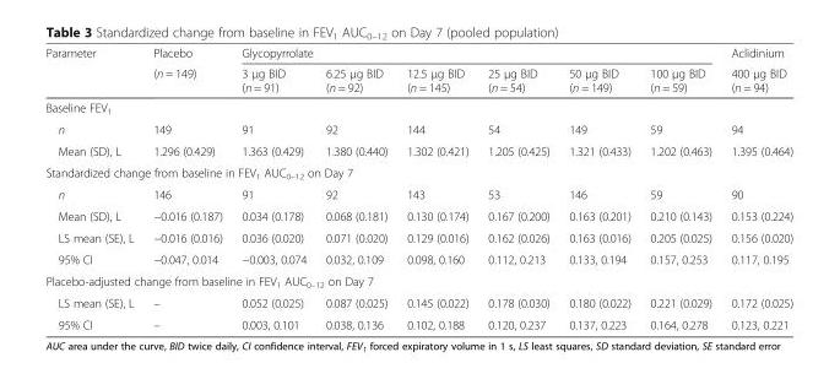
<table><thead><tr><td rowspan="2">Parameter</td><td rowspan="2">Placebo (n = 149)</td><td colspan="6">Glycopyrrolate</td><td rowspan="2">Aclidinium 400 μg BID (n = 94)</td></tr><tr><td>3 μg BID (n = 91)</td><td>6.25 μg BID (n = 92)</td><td>12.5 μg BID (n = 145)</td><td>25 μg BID (n = 54)</td><td>50 μg BID (n = 149)</td><td>100 μg BID (n = 59)</td></tr></thead><tbody><tr><td colspan="9">Baseline FEV<sub>1</sub></td></tr><tr><td>n</td><td>149</td><td>91</td><td>92</td><td>144</td><td>54</td><td>149</td><td>59</td><td>94</td></tr><tr><td>Mean (SD), L</td><td>1.296 (0.429)</td><td>1.363 (0.429)</td><td>1.380 (0.440)</td><td>1.302 (0.421)</td><td>1.205 (0.425)</td><td>1.321 (0.433)</td><td>1.202 (0.463)</td><td>1.395 (0.464)</td></tr><tr><td colspan="9">Standardized change from baseline in FEV<sub>1</sub> AUC<sub>0–12</sub> on Day 7</td></tr><tr><td>n</td><td>146</td><td>91</td><td>92</td><td>143</td><td>53</td><td>146</td><td>59</td><td>90</td></tr><tr><td>Mean (SD), L</td><td>−0.016 (0.187)</td><td>0.034 (0.178)</td><td>0.068 (0.181)</td><td>0.130 (0.174)</td><td>0.167 (0.200)</td><td>0.163 (0.201)</td><td>0.210 (0.143)</td><td>0.153 (0.224)</td></tr><tr><td>LS mean (SE), L</td><td>−0.016 (0.016)</td><td>0.036 (0.020)</td><td>0.071 (0.020)</td><td>0.129 (0.016)</td><td>0.162 (0.026)</td><td>0.163 (0.016)</td><td>0.205 (0.025)</td><td>0.156 (0.020)</td></tr><tr><td>95% CI</td><td>−0.047, 0.014</td><td>−0.003, 0.074</td><td>0.032, 0.109</td><td>0.098, 0.160</td><td>0.112, 0.213</td><td>0.133, 0.194</td><td>0.157, 0.253</td><td>0.117, 0.195</td></tr><tr><td colspan="9">Placebo-adjusted change from baseline in FEV<sub>1</sub> AUC<sub>0–12</sub> on Day 7</td></tr><tr><td>LS mean (SE), L</td><td>–</td><td>0.052 (0.025)</td><td>0.087 (0.025)</td><td>0.145 (0.022)</td><td>0.178 (0.030)</td><td>0.180 (0.022)</td><td>0.221 (0.029)</td><td>0.172 (0.025)</td></tr><tr><td>95% CI</td><td>–</td><td>0.003, 0.101</td><td>0.038, 0.136</td><td>0.102, 0.188</td><td>0.120, 0.237</td><td>0.137, 0.223</td><td>0.164, 0.278</td><td>0.123, 0.221</td></tr></tbody></table>